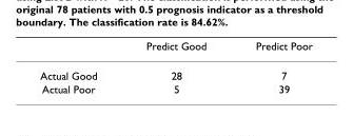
<table><thead><tr><td></td><td>Predict Good</td><td>Predict Poor</td></tr></thead><tbody><tr><td>Actual Good</td><td>28</td><td>7</td></tr><tr><td>Actual Poor</td><td>5</td><td>39</td></tr></tbody></table>